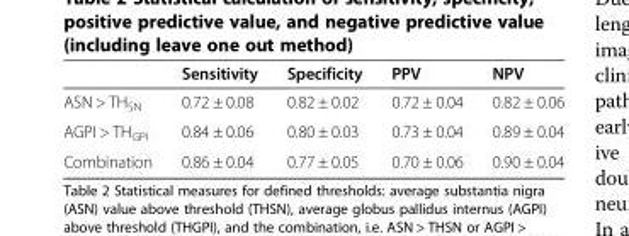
<table><thead><tr><td></td><td>Sensitivity</td><td>Specificity</td><td>PPV</td><td>NPV</td></tr></thead><tbody><tr><td>ASN &gt; TH<sub>SN</sub></td><td>0.72 ± 0.08</td><td>0.82 ± 0.02</td><td>0.72 ± 0.04</td><td>0.82 ± 0.06</td></tr><tr><td>AGPI &gt; TH<sub>GPI</sub></td><td>0.84 ± 0.06</td><td>0.80 ± 0.03</td><td>0.73 ± 0.04</td><td>0.89 ± 0.04</td></tr><tr><td>Combination</td><td>0.86 ± 0.04</td><td>0.77 ± 0.05</td><td>0.70 ± 0.06</td><td>0.90 ± 0.04</td></tr></tbody></table>